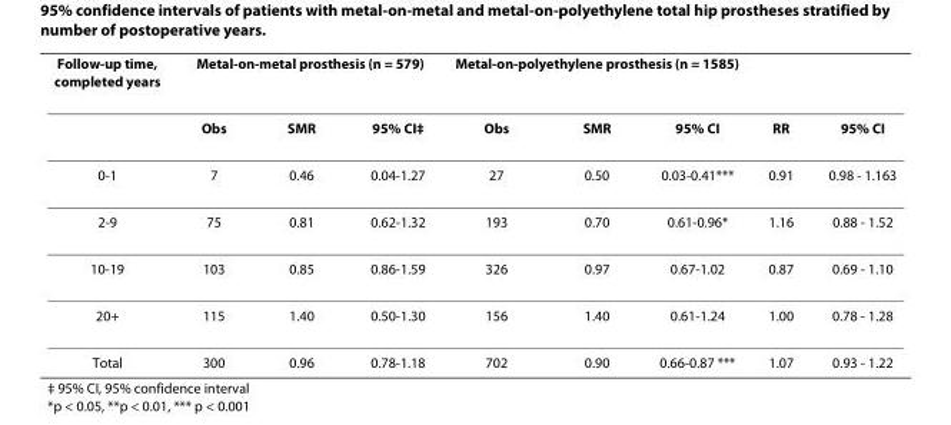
<table><thead><tr><td rowspan="2">Follow-up time, completed years</td><td colspan="3">Metal-on-metal prosthesis (n = 579)</td><td colspan="3">Metal-on-polyethylene prosthesis (n = 1585)</td><td rowspan="2">RR</td><td rowspan="2">95% CI</td></tr><tr><td>Obs</td><td>SMR</td><td>95% CI‡</td><td>Obs</td><td>SMR</td><td>95% CI</td></tr></thead><tbody><tr><td>0-1</td><td>7</td><td>0.46</td><td>0.04-1.27</td><td>27</td><td>0.50</td><td>0.03-0.41***</td><td>0.91</td><td>0.98 - 1.163</td></tr><tr><td>2-9</td><td>75</td><td>0.81</td><td>0.62-1.32</td><td>193</td><td>0.70</td><td>0.61-0.96*</td><td>1.16</td><td>0.88 - 1.52</td></tr><tr><td>10-19</td><td>103</td><td>0.85</td><td>0.86-1.59</td><td>326</td><td>0.97</td><td>0.67-1.02</td><td>0.87</td><td>0.69 - 1.10</td></tr><tr><td>20+</td><td>115</td><td>1.40</td><td>0.50-1.30</td><td>156</td><td>1.40</td><td>0.61-1.24</td><td>1.00</td><td>0.78 - 1.28</td></tr><tr><td>Total</td><td>300</td><td>0.96</td><td>0.78-1.18</td><td>702</td><td>0.90</td><td>0.66-0.87 ***</td><td>1.07</td><td>0.93 - 1.22</td></tr></tbody></table>